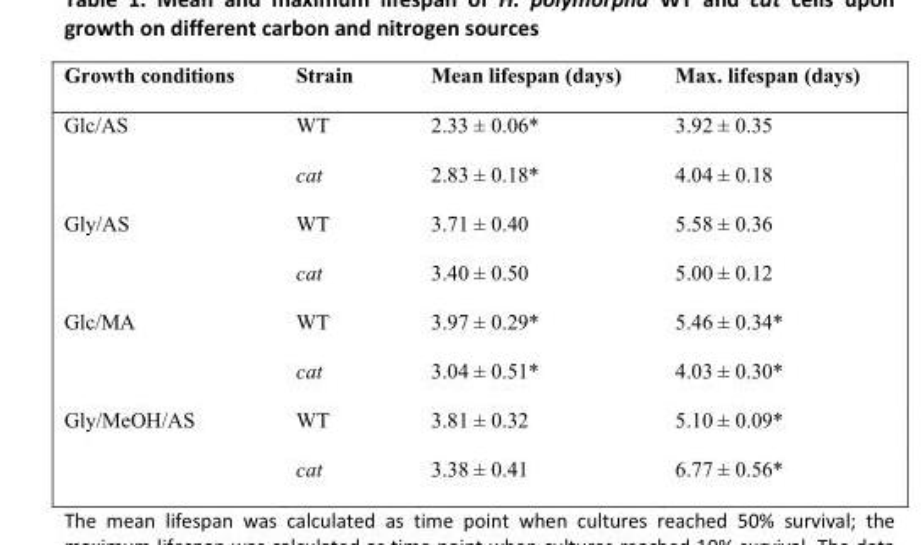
<table><thead><tr><td>Growth conditions</td><td>Strain</td><td>Mean lifespan (days)</td><td>Max. lifespan (days)</td></tr></thead><tbody><tr><td rowspan="2">Glc/AS</td><td>WT</td><td>2.33 ± 0.06*</td><td>3.92 ± 0.35</td></tr><tr><td>cat</td><td>2.83 ± 0.18*</td><td>4.04 ± 0.18</td></tr><tr><td rowspan="2">Gly/AS</td><td>WT</td><td>3.71 ± 0.40</td><td>5.58 ± 0.36</td></tr><tr><td>cat</td><td>3.40 ± 0.50</td><td>5.00 ± 0.12</td></tr><tr><td rowspan="2">Glc/MA</td><td>WT</td><td>3.97 ± 0.29*</td><td>5.46 ± 0.34*</td></tr><tr><td>cat</td><td>3.04 ± 0.51*</td><td>4.03 ± 0.30*</td></tr><tr><td rowspan="2">Gly/MeOH/AS</td><td>WT</td><td>3.81 ± 0.32</td><td>5.10 ± 0.09*</td></tr><tr><td>cat</td><td>3.38 ± 0.41</td><td>6.77 ± 0.56*</td></tr></tbody></table>